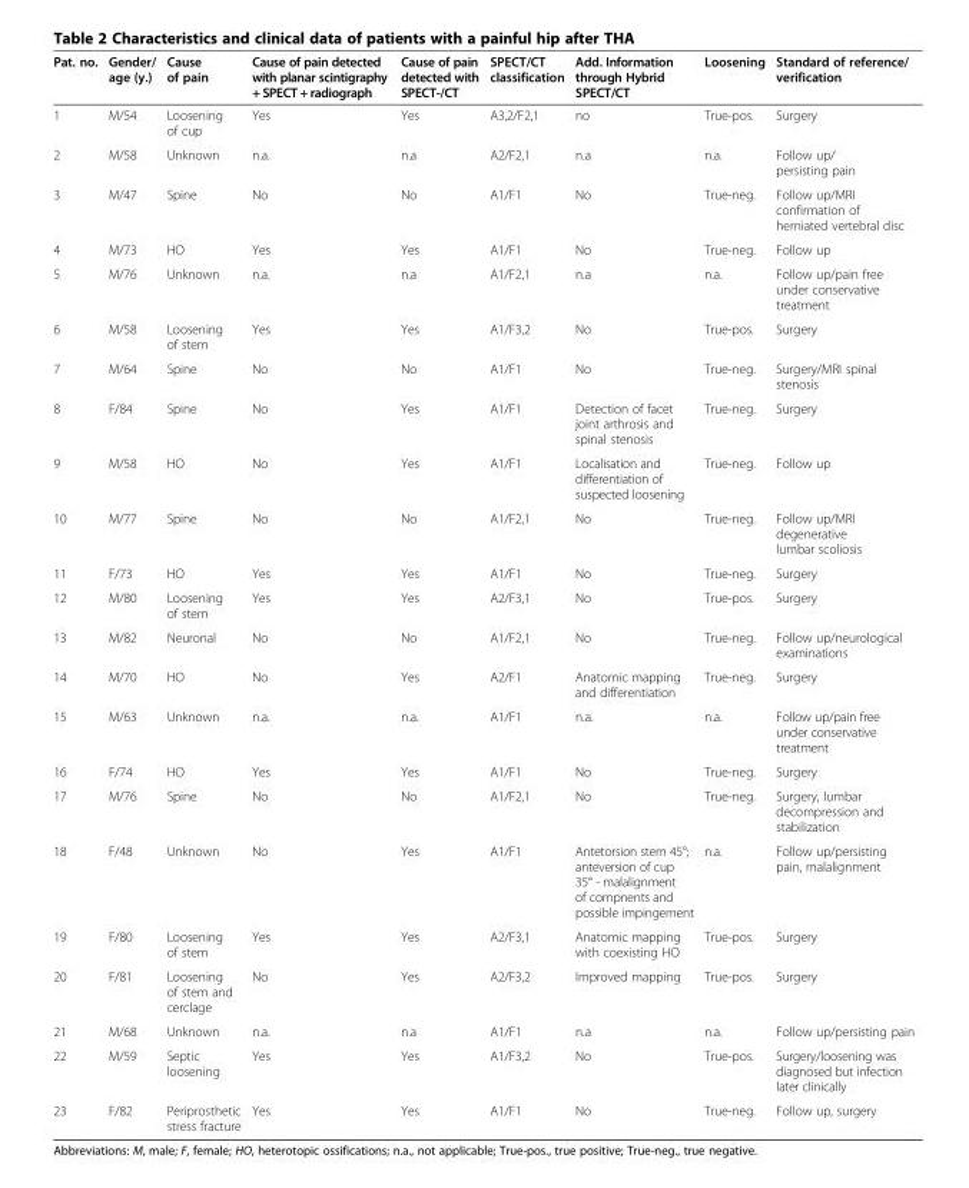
<table><thead><tr><td>Pat. no.</td><td>Gender/ age (y.)</td><td>Cause of pain</td><td>Cause of pain detected with planar scintigraphy + SPECT + radiograph</td><td>Cause of pain detected with SPECT-/CT</td><td>SPECT/CT classification</td><td>Add. Information through Hybrid SPECT/CT</td><td>Loosening</td><td>Standard of reference/ verification</td></tr></thead><tbody><tr><td>1</td><td>M/54</td><td>Loosening of cup</td><td>Yes</td><td>Yes</td><td>A3,2/F2,1</td><td>no</td><td>True-pos.</td><td>Surgery</td></tr><tr><td>2</td><td>M/58</td><td>Unknown</td><td>n.a.</td><td>n.a</td><td>A2/F2,1</td><td>n.a</td><td>n.a.</td><td>Follow up/ persisting pain</td></tr><tr><td>3</td><td>M/47</td><td>Spine</td><td>No</td><td>No</td><td>A1/F1</td><td>No</td><td>True-neg.</td><td>Follow up/MRI confirmation of herniated vertebral disc</td></tr><tr><td>4</td><td>M/73</td><td>HO</td><td>Yes</td><td>Yes</td><td>A1/F1</td><td>No</td><td>True-neg.</td><td>Follow up</td></tr><tr><td>5</td><td>M/76</td><td>Unknown</td><td>n.a.</td><td>n.a</td><td>A1/F2,1</td><td>n.a</td><td>n.a.</td><td>Follow up/pain free under conservative treatment</td></tr><tr><td>6</td><td>M/58</td><td>Loosening of stem</td><td>Yes</td><td>Yes</td><td>A1/F3,2</td><td>No</td><td>True-pos.</td><td>Surgery</td></tr><tr><td>7</td><td>M/64</td><td>Spine</td><td>No</td><td>No</td><td>A1/F1</td><td>No</td><td>True-neg.</td><td>Surgery/MRI spinal stenosis</td></tr><tr><td>8</td><td>F/84</td><td>Spine</td><td>No</td><td>Yes</td><td>A1/F1</td><td>Detection of facet joint arthrosis and spinal stenosis</td><td>True-neg.</td><td>Surgery</td></tr><tr><td>9</td><td>M/58</td><td>HO</td><td>No</td><td>Yes</td><td>A1/F1</td><td>Localisation and differentiation of suspected loosening</td><td>True-neg.</td><td>Follow up</td></tr><tr><td>10</td><td>M/77</td><td>Spine</td><td>No</td><td>No</td><td>A1/F2,1</td><td>No</td><td>True-neg.</td><td>Follow up/MRI degenerative lumbar scoliosis</td></tr><tr><td>11</td><td>F/73</td><td>HO</td><td>Yes</td><td>Yes</td><td>A1/F1</td><td>No</td><td>True-neg.</td><td>Surgery</td></tr><tr><td>12</td><td>M/80</td><td>Loosening of stem</td><td>Yes</td><td>Yes</td><td>A2/F3,1</td><td>No</td><td>True-pos.</td><td>Surgery</td></tr><tr><td>13</td><td>M/82</td><td>Neuronal</td><td>No</td><td>No</td><td>A1/F2,1</td><td>No</td><td>True-neg.</td><td>Follow up/neurological examinations</td></tr><tr><td>14</td><td>M/70</td><td>HO</td><td>No</td><td>Yes</td><td>A2/F1</td><td>Anatomic mapping and differentiation</td><td>True-neg.</td><td>Surgery</td></tr><tr><td>15</td><td>M/63</td><td>Unknown</td><td>n.a.</td><td>n.a.</td><td>A1/F1</td><td>n.a.</td><td>n.a.</td><td>Follow up/pain free under conservative treatment</td></tr><tr><td>16</td><td>F/74</td><td>HO</td><td>Yes</td><td>Yes</td><td>A1/F1</td><td>No</td><td>True-neg.</td><td>Surgery</td></tr><tr><td>17</td><td>M/76</td><td>Spine</td><td>No</td><td>No</td><td>A1/F2,1</td><td>No</td><td>True-neg.</td><td>Surgery, lumbar decompression and stabilization</td></tr><tr><td>18</td><td>F/48</td><td>Unknown</td><td>No</td><td>Yes</td><td>A1/F1</td><td>Antetorsion stem 45°; anteversion of cup 35° - malalignment of compnents and possible impingement</td><td>n.a.</td><td>Follow up/persisting pain, malalignment</td></tr><tr><td>19</td><td>F/80</td><td>Loosening of stem</td><td>Yes</td><td>Yes</td><td>A2/F3,1</td><td>Anatomic mapping with coexisting HO</td><td>True-pos.</td><td>Surgery</td></tr><tr><td>20</td><td>F/81</td><td>Loosening of stem and cerclage</td><td>No</td><td>Yes</td><td>A2/F3,2</td><td>Improved mapping</td><td>True-pos.</td><td>Surgery</td></tr><tr><td>21</td><td>M/68</td><td>Unknown</td><td>n.a.</td><td>n.a</td><td>A1/F1</td><td>n.a</td><td>n.a.</td><td>Follow up/persisting pain</td></tr><tr><td>22</td><td>M/59</td><td>Septic loosening</td><td>Yes</td><td>Yes</td><td>A1/F3,2</td><td>No</td><td>True-pos.</td><td>Surgery/loosening was diagnosed but infection later clinically</td></tr><tr><td>23</td><td>F/82</td><td>Periprosthetic stress fracture</td><td>Yes</td><td>Yes</td><td>A1/F1</td><td>No</td><td>True-neg.</td><td>Follow up, surgery</td></tr></tbody></table>